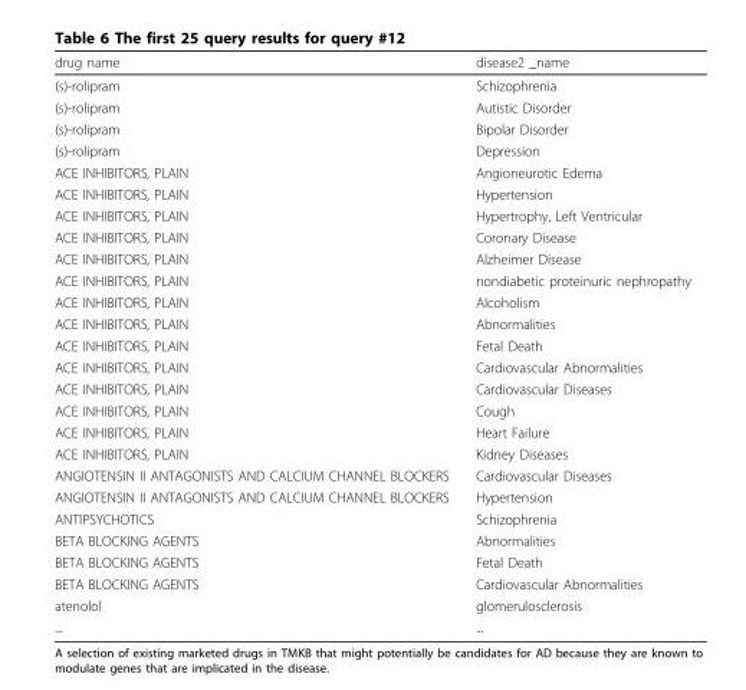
<table><thead><tr><td>drug name</td><td>disease2 _name</td></tr></thead><tbody><tr><td>(s)-rolipram</td><td>Schizophrenia</td></tr><tr><td>(s)-rolipram</td><td>Autistic Disorder</td></tr><tr><td>(s)-rolipram</td><td>Bipolar Disorder</td></tr><tr><td>(s)-rolipram</td><td>Depression</td></tr><tr><td>ACE INHIBITORS, PLAIN</td><td>Angioneurotic Edema</td></tr><tr><td>ACE INHIBITORS, PLAIN</td><td>Hypertension</td></tr><tr><td>ACE INHIBITORS, PLAIN</td><td>Hypertrophy, Left Ventricular</td></tr><tr><td>ACE INHIBITORS, PLAIN</td><td>Coronary Disease</td></tr><tr><td>ACE INHIBITORS, PLAIN</td><td>Alzheimer Disease</td></tr><tr><td>ACE INHIBITORS, PLAIN</td><td>nondiabetic proteinuric nephropathy</td></tr><tr><td>ACE INHIBITORS, PLAIN</td><td>Alcoholism</td></tr><tr><td>ACE INHIBITORS, PLAIN</td><td>Abnormalities</td></tr><tr><td>ACE INHIBITORS, PLAIN</td><td>Fetal Death</td></tr><tr><td>ACE INHIBITORS, PLAIN</td><td>Cardiovascular Abnormalities</td></tr><tr><td>ACE INHIBITORS, PLAIN</td><td>Cardiovascular Diseases</td></tr><tr><td>ACE INHIBITORS, PLAIN</td><td>Cough</td></tr><tr><td>ACE INHIBITORS, PLAIN</td><td>Heart Failure</td></tr><tr><td>ACE INHIBITORS, PLAIN</td><td>Kidney Diseases</td></tr><tr><td>ANGIOTENSIN II ANTAGONISTS AND CALCIUM CHANNEL BLOCKERS</td><td>Cardiovascular Diseases</td></tr><tr><td>ANGIOTENSIN II ANTAGONISTS AND CALCIUM CHANNEL BLOCKERS</td><td>Hypertension</td></tr><tr><td>ANTIPSYCHOTICS</td><td>Schizophrenia</td></tr><tr><td>BETA BLOCKING AGENTS</td><td>Abnormalities</td></tr><tr><td>BETA BLOCKING AGENTS</td><td>Fetal Death</td></tr><tr><td>BETA BLOCKING AGENTS</td><td>Cardiovascular Abnormalities</td></tr><tr><td>atenolol</td><td>glomerulosclerosis</td></tr><tr><td>...</td><td>...</td></tr></tbody></table>